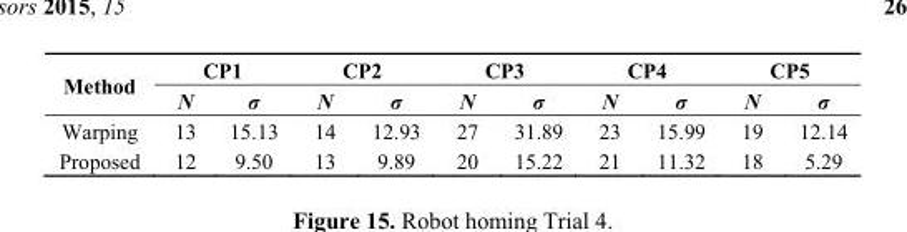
<table><thead><tr><td rowspan="2">Method</td><td colspan="2">CP1</td><td colspan="2">CP2</td><td colspan="2">CP3</td><td colspan="2">CP4</td><td colspan="2">CP5</td></tr><tr><td>N</td><td>σ</td><td>N</td><td>σ</td><td>N</td><td>σ</td><td>N</td><td>σ</td><td>N</td><td>σ</td></tr></thead><tbody><tr><td>Warping</td><td>13</td><td>15.13</td><td>14</td><td>12.93</td><td>27</td><td>31.89</td><td>23</td><td>15.99</td><td>19</td><td>12.14</td></tr><tr><td>Proposed</td><td>12</td><td>9.50</td><td>13</td><td>9.89</td><td>20</td><td>15.22</td><td>21</td><td>11.32</td><td>18</td><td>5.29</td></tr></tbody></table>